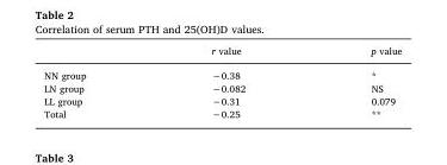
<table><thead><tr><td></td><td>r value</td><td>p value</td></tr></thead><tbody><tr><td>NN group</td><td>−0.38</td><td>*</td></tr><tr><td>LN group</td><td>−0.082</td><td>NS</td></tr><tr><td>LL group</td><td>−0.31</td><td>0.079</td></tr><tr><td>Total</td><td>−0.25</td><td>**</td></tr></tbody></table>